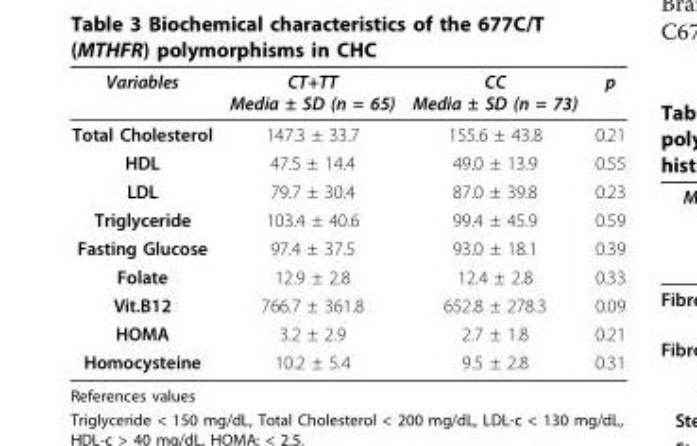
<table><thead><tr><td>Variables</td><td>CT+TT Media ± SD (n = 65)</td><td>CC Media ± SD (n = 73)</td><td>p</td></tr></thead><tbody><tr><td>Total Cholesterol</td><td>147.3 ± 33.7</td><td>155.6 ± 43.8</td><td>0.21</td></tr><tr><td>HDL</td><td>47.5 ± 14.4</td><td>49.0 ± 13.9</td><td>0.55</td></tr><tr><td>LDL</td><td>79.7 ± 30.4</td><td>87.0 ± 39.8</td><td>0.23</td></tr><tr><td>Triglyceride</td><td>103.4 ± 40.6</td><td>99.4 ± 45.9</td><td>0.59</td></tr><tr><td>Fasting Glucose</td><td>97.4 ± 37.5</td><td>93.0 ± 18.1</td><td>0.39</td></tr><tr><td>Folate</td><td>12.9 ± 2.8</td><td>12.4 ± 2.8</td><td>0.33</td></tr><tr><td>Vit.B12</td><td>766.7 ± 361.8</td><td>652.8 ± 278.3</td><td>0.09</td></tr><tr><td>HOMA</td><td>3.2 ± 2.9</td><td>2.7 ± 1.8</td><td>0.21</td></tr><tr><td>Homocysteine</td><td>10.2 ± 5.4</td><td>9.5 ± 2.8</td><td>0.31</td></tr></tbody></table>